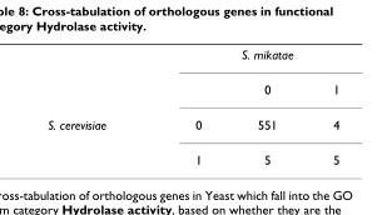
<table><thead><tr><td rowspan="2"></td><td colspan="3">S. mikatae</td></tr><tr><td></td><td>0</td><td>1</td></tr></thead><tbody><tr><td rowspan="2">S. cerevisiae</td><td>0</td><td>551</td><td>4</td></tr><tr><td>1</td><td>5</td><td>5</td></tr></tbody></table>